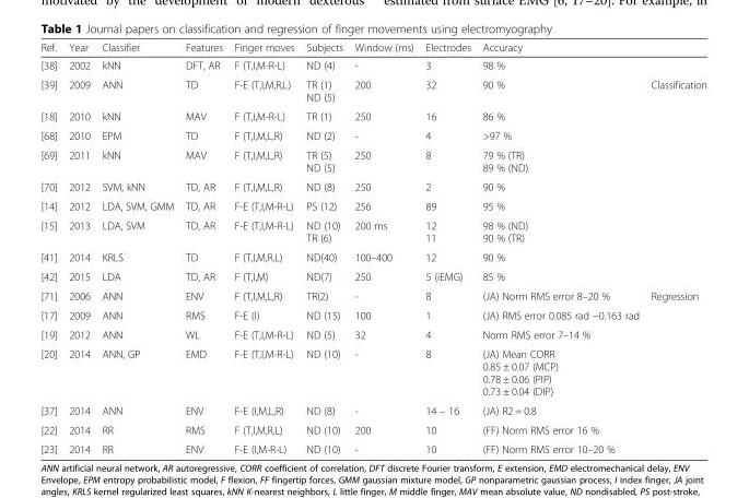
<table><thead><tr><td>Ref.</td><td>Year</td><td>Classifier</td><td>Features</td><td>Finger moves</td><td>Subjects</td><td>Window (ms)</td><td>Electrodes</td><td>Accuracy</td><td></td></tr></thead><tbody><tr><td>[38]</td><td>2002</td><td>kNN</td><td>DFT, AR</td><td>F (T,I,M-R-L)</td><td>ND (4)</td><td>-</td><td>3</td><td>98 %</td><td></td></tr><tr><td>[39]</td><td>2009</td><td>ANN</td><td>TD</td><td>F-E (T,I,M,R,L)</td><td>TR (1) ND (5)</td><td>200</td><td>32</td><td>90 %</td><td rowspan="9">Classification</td></tr><tr><td>[18]</td><td>2010</td><td>kNN</td><td>MAV</td><td>F (T,I,M-R-L)</td><td>TR (1)</td><td>250</td><td>16</td><td>86 %</td></tr><tr><td>[68]</td><td>2010</td><td>EPM</td><td>TD</td><td>F (T,I,M,L,R)</td><td>ND (2)</td><td>-</td><td>4</td><td>&gt;97 %</td></tr><tr><td>[69]</td><td>2011</td><td>kNN</td><td>MAV</td><td>F (T,I,M,L,R)</td><td>TR (5) ND (5)</td><td>250</td><td>8</td><td>79 % (TR) 89 % (ND)</td></tr><tr><td>[70]</td><td>2012</td><td>SVM, kNN</td><td>TD, AR</td><td>F (T,I,M,L,R)</td><td>ND (8)</td><td>250</td><td>2</td><td>90 %</td></tr><tr><td>[14]</td><td>2012</td><td>LDA, SVM, GMM</td><td>TD, AR</td><td>F-E (T,I,M-R-L)</td><td>PS (12)</td><td>256</td><td>89</td><td>95 %</td></tr><tr><td>[15]</td><td>2013</td><td>LDA, SVM</td><td>TD, AR</td><td>F-E (T,I,M-R-L)</td><td>ND (10) TR (6)</td><td>200 ms</td><td>12 11</td><td>98 % (ND) 90 % (TR)</td></tr><tr><td>[41]</td><td>2014</td><td>KRLS</td><td>TD</td><td>F (T,I,M,R,L)</td><td>ND(40)</td><td>100–400</td><td>12</td><td>90 %</td></tr><tr><td>[42]</td><td>2015</td><td>LDA</td><td>TD, AR</td><td>F (T,I,M)</td><td>ND(7)</td><td>250</td><td>5 (iEMG)</td><td>85 %</td></tr><tr><td>[71]</td><td>2006</td><td>ANN</td><td>ENV</td><td>F (T,I,M,L,R)</td><td>TR(2)</td><td>-</td><td>8</td><td>(JA) Norm RMS error 8–20 %</td><td rowspan="7">Regression</td></tr><tr><td>[17]</td><td>2009</td><td>ANN</td><td>RMS</td><td>F-E (I)</td><td>ND (15)</td><td>100</td><td>1</td><td>(JA) RMS error 0.085 rad −0.163 rad</td></tr><tr><td>[19]</td><td>2012</td><td>ANN</td><td>WL</td><td>F-E (T,I,M-R-L)</td><td>ND (5)</td><td>32</td><td>4</td><td>Norm RMS error 7–14 %</td></tr><tr><td>[20]</td><td>2014</td><td>ANN, GP</td><td>EMD</td><td>F-E (T,I,M-R-L)</td><td>ND (10)</td><td>-</td><td>8</td><td>(JA) Mean CORR 0.85 ± 0.07 (MCP) 0.78 ± 0.06 (PIP) 0.73 ± 0.04 (DIP)</td></tr><tr><td>[37]</td><td>2014</td><td>ANN</td><td>ENV</td><td>F-E (I,M,L,R)</td><td>ND (8)</td><td>-</td><td>14 – 16</td><td>(JA) R2 = 0.8</td></tr><tr><td>[22]</td><td>2014</td><td>RR</td><td>RMS</td><td>F (T,I,M,R,L)</td><td>ND (10)</td><td>200</td><td>10</td><td>(FF) Norm RMS error 16 %</td></tr><tr><td>[23]</td><td>2014</td><td>RR</td><td>ENV</td><td>F-E (I,M-R-L)</td><td>ND (10)</td><td>-</td><td>10</td><td>(FF) Norm RMS error 10–20 %</td></tr></tbody></table>